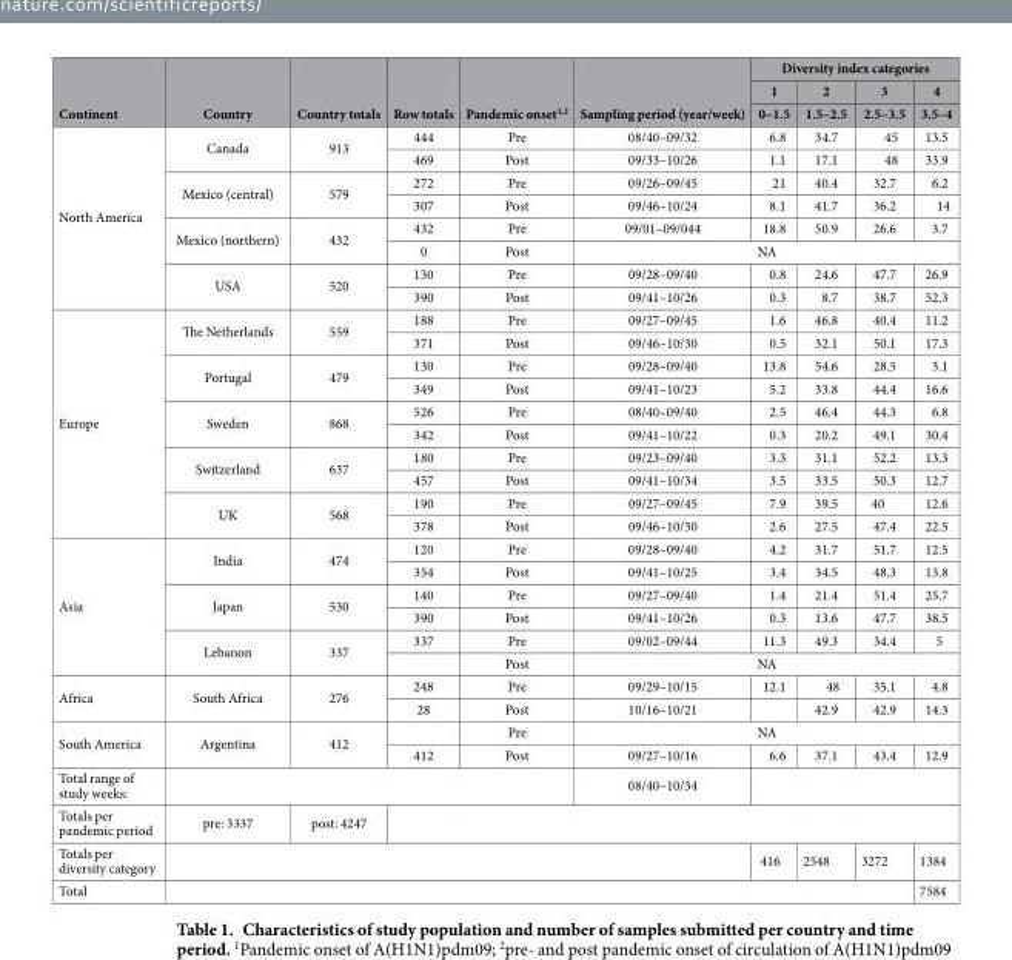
<table><thead><tr><td rowspan="3">Continent</td><td rowspan="3">Country</td><td rowspan="3">Country totals</td><td rowspan="3">Row totals</td><td rowspan="3">Pandemic onset<sup>1,2</sup></td><td rowspan="3">Sampling period (year/week)</td><td colspan="4">Diversity index categories</td></tr><tr><td rowspan="2">1 0–1.5</td><td rowspan="2">2 1.5–2.5</td><td rowspan="2">3 2.5–3.5</td><td rowspan="2">4 3.5–4</td></tr><tr></tr></thead><tbody><tr><td rowspan="8">North America</td><td rowspan="2">Canada</td><td rowspan="2">913</td><td>444</td><td>Pre</td><td>08/40–09/32</td><td>6.8</td><td>34.7</td><td>45</td><td>13.5</td></tr><tr><td>469</td><td>Post</td><td>09/33–10/26</td><td>1.1</td><td>17.1</td><td>48</td><td>33.9</td></tr><tr><td rowspan="2">Mexico (central)</td><td rowspan="2">579</td><td>272</td><td>Pre</td><td>09/26–09/45</td><td>21</td><td>40.4</td><td>32.7</td><td>6.2</td></tr><tr><td>307</td><td>Post</td><td>09/46–10/24</td><td>8.1</td><td>41.7</td><td>36.2</td><td>14</td></tr><tr><td rowspan="2">Mexico (northern)</td><td rowspan="2">432</td><td>432</td><td>Pre</td><td>09/01–09/044</td><td>18.8</td><td>50.9</td><td>26.6</td><td>3.7</td></tr><tr><td>0</td><td>Post</td><td colspan="5">NA</td></tr><tr><td rowspan="2">USA</td><td rowspan="2">520</td><td>130</td><td>Pre</td><td>09/28–09/40</td><td>0.8</td><td>24.6</td><td>47.7</td><td>26.9</td></tr><tr><td>390</td><td>Post</td><td>09/41–10/26</td><td>0.3</td><td>8.7</td><td>38.7</td><td>52.3</td></tr><tr><td rowspan="10">Europe</td><td rowspan="2">The Netherlands</td><td rowspan="2">559</td><td>188</td><td>Pre</td><td>09/27–09/45</td><td>1.6</td><td>46.8</td><td>40.4</td><td>11.2</td></tr><tr><td>371</td><td>Post</td><td>09/46–10/30</td><td>0.5</td><td>32.1</td><td>50.1</td><td>17.3</td></tr><tr><td rowspan="2">Portugal</td><td rowspan="2">479</td><td>130</td><td>Pre</td><td>09/28–09/40</td><td>13.8</td><td>54.6</td><td>28.5</td><td>3.1</td></tr><tr><td>349</td><td>Post</td><td>09/41–10/23</td><td>5.2</td><td>33.8</td><td>44.4</td><td>16.6</td></tr><tr><td rowspan="2">Sweden</td><td rowspan="2">868</td><td>526</td><td>Pre</td><td>08/40–09/40</td><td>2.5</td><td>46.4</td><td>44.3</td><td>6.8</td></tr><tr><td>342</td><td>Post</td><td>09/41–10/22</td><td>0.3</td><td>20.2</td><td>49.1</td><td>30.4</td></tr><tr><td rowspan="2">Switzerland</td><td rowspan="2">637</td><td>180</td><td>Pre</td><td>09/23–09/40</td><td>3.3</td><td>31.1</td><td>52.2</td><td>13.3</td></tr><tr><td>457</td><td>Post</td><td>09/41–10/34</td><td>3.5</td><td>33.5</td><td>50.3</td><td>12.7</td></tr><tr><td rowspan="2">UK</td><td rowspan="2">568</td><td>190</td><td>Pre</td><td>09/27–09/45</td><td>7.9</td><td>39.5</td><td>40</td><td>12.6</td></tr><tr><td>378</td><td>Post</td><td>09/46–10/30</td><td>2.6</td><td>27.5</td><td>47.4</td><td>22.5</td></tr><tr><td rowspan="6">Asia</td><td rowspan="2">India</td><td rowspan="2">474</td><td>120</td><td>Pre</td><td>09/28–09/40</td><td>4.2</td><td>31.7</td><td>51.7</td><td>12.5</td></tr><tr><td>354</td><td>Post</td><td>09/41–10/25</td><td>3.4</td><td>34.5</td><td>48.3</td><td>13.8</td></tr><tr><td rowspan="2">Japan</td><td rowspan="2">530</td><td>140</td><td>Pre</td><td>09/27–09/40</td><td>1.4</td><td>21.4</td><td>51.4</td><td>25.7</td></tr><tr><td>390</td><td>Post</td><td>09/41–10/26</td><td>0.3</td><td>13.6</td><td>47.7</td><td>38.5</td></tr><tr><td rowspan="2">Lebanon</td><td rowspan="2">337</td><td>337</td><td>Pre</td><td>09/02–09/44</td><td>11.3</td><td>49.3</td><td>34.4</td><td>5</td></tr><tr><td></td><td>Post</td><td colspan="5">NA</td></tr><tr><td rowspan="2">Africa</td><td rowspan="2">South Africa</td><td rowspan="2">276</td><td>248</td><td>Pre</td><td>09/29–10/15</td><td>12.1</td><td>48</td><td>35.1</td><td>4.8</td></tr><tr><td>28</td><td>Post</td><td>10/16–10/21</td><td></td><td>42.9</td><td>42.9</td><td>14.3</td></tr><tr><td rowspan="2">South America</td><td rowspan="2">Argentina</td><td rowspan="2">412</td><td></td><td>Pre</td><td colspan="5">NA</td></tr><tr><td>412</td><td>Post</td><td>09/27–10/16</td><td>6.6</td><td>37.1</td><td>43.4</td><td>12.9</td></tr><tr><td>Total range of study weeks:</td><td colspan="4"></td><td>08/40–10/34</td><td colspan="4"></td></tr><tr><td>Totals per pandemic period</td><td>pre: 3337</td><td>post: 4247</td><td colspan="7"></td></tr><tr><td>Totals per diversity category</td><td colspan="5"></td><td>416</td><td>2548</td><td>3272</td><td>1384</td></tr><tr><td>Total</td><td colspan="8"></td><td>7584</td></tr></tbody></table>